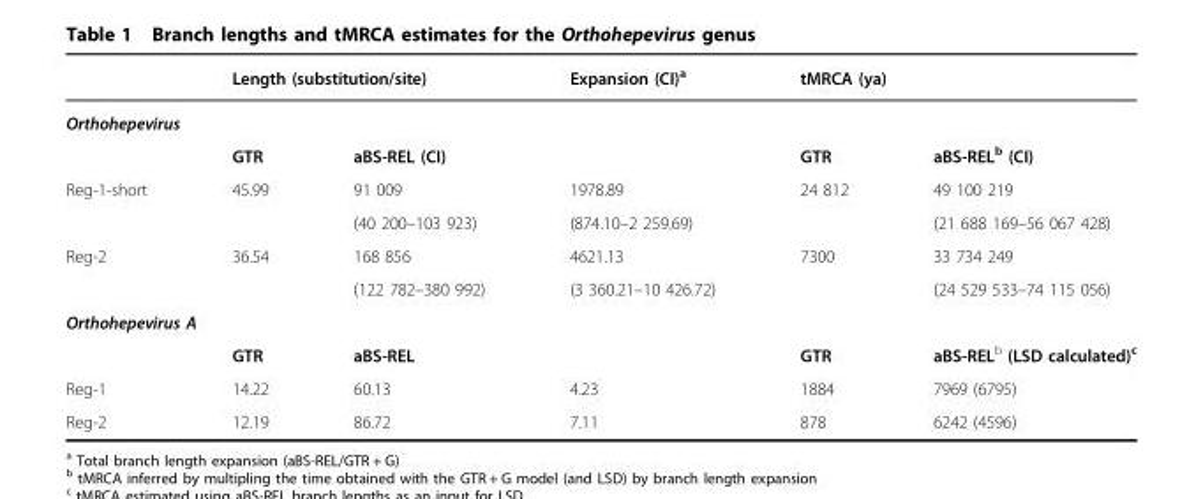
<table><thead><tr><td></td><td colspan="2">Length (substitution/site)</td><td>Expansion (CI)<sup>a</sup></td><td colspan="2">tMRCA (ya)</td></tr><tr><td colspan="6">Orthohepevirus</td></tr><tr><td></td><td>GTR</td><td>aBS-REL (CI)</td><td></td><td>GTR</td><td>aBS-REL<sup>b</sup> (CI)</td></tr></thead><tbody><tr><td rowspan="2">Reg-1-short</td><td>45.99</td><td>91 009</td><td>1978.89</td><td>24 812</td><td>49 100 219</td></tr><tr><td></td><td>(40 200–103 923)</td><td>(874.10–2 259.69)</td><td></td><td>(21 688 169–56 067 428)</td></tr><tr><td rowspan="2">Reg-2</td><td>36.54</td><td>168 856</td><td>4621.13</td><td>7300</td><td>33 734 249</td></tr><tr><td></td><td>(122 782–380 992)</td><td>(3 360.21–10 426.72)</td><td></td><td>(24 529 533–74 115 056)</td></tr><tr><td colspan="6">Orthohepevirus A</td></tr><tr><td></td><td>GTR</td><td>aBS-REL</td><td></td><td>GTR</td><td>aBS-REL<sup>b</sup> (LSD calculated)<sup>c</sup></td></tr><tr><td>Reg-1</td><td>14.22</td><td>60.13</td><td>4.23</td><td>1884</td><td>7969 (6795)</td></tr><tr><td>Reg-2</td><td>12.19</td><td>86.72</td><td>7.11</td><td>878</td><td>6242 (4596)</td></tr></tbody></table>